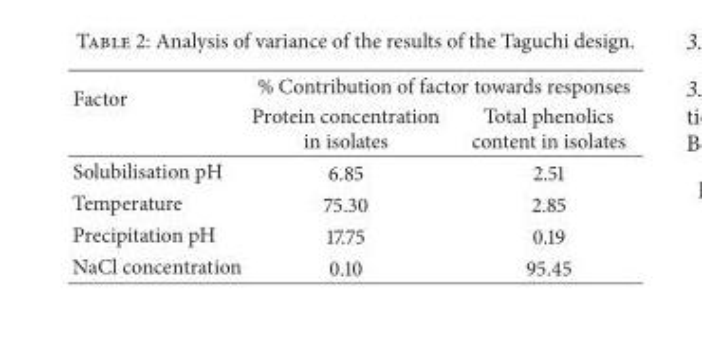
<table><thead><tr><td rowspan="2">Factor</td><td colspan="2">% Contribution of factor towards responses</td></tr><tr><td>Protein concentration in isolates</td><td>Total phenolics content in isolates</td></tr></thead><tbody><tr><td>Solubilisation pH</td><td>6.85</td><td>2.51</td></tr><tr><td>Temperature</td><td>75.30</td><td>2.85</td></tr><tr><td>Precipitation pH</td><td>17.75</td><td>0.19</td></tr><tr><td>NaCl concentration</td><td>0.10</td><td>95.45</td></tr></tbody></table>